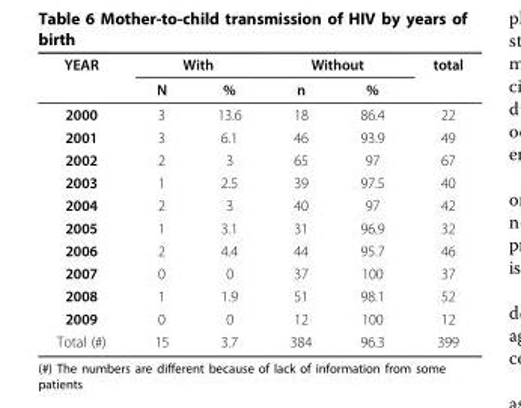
<table><thead><tr><td rowspan="2">YEAR</td><td colspan="2">With</td><td colspan="2">Without</td><td rowspan="2">total</td></tr><tr><td>N</td><td>%</td><td>n</td><td>%</td></tr></thead><tbody><tr><td>2000</td><td>3</td><td>13.6</td><td>18</td><td>86.4</td><td>22</td></tr><tr><td>2001</td><td>3</td><td>6.1</td><td>46</td><td>93.9</td><td>49</td></tr><tr><td>2002</td><td>2</td><td>3</td><td>65</td><td>97</td><td>67</td></tr><tr><td>2003</td><td>1</td><td>2.5</td><td>39</td><td>97.5</td><td>40</td></tr><tr><td>2004</td><td>2</td><td>3</td><td>40</td><td>97</td><td>42</td></tr><tr><td>2005</td><td>1</td><td>3.1</td><td>31</td><td>96.9</td><td>32</td></tr><tr><td>2006</td><td>2</td><td>4.4</td><td>44</td><td>95.7</td><td>46</td></tr><tr><td>2007</td><td>0</td><td>0</td><td>37</td><td>100</td><td>37</td></tr><tr><td>2008</td><td>1</td><td>1.9</td><td>51</td><td>98.1</td><td>52</td></tr><tr><td>2009</td><td>0</td><td>0</td><td>12</td><td>100</td><td>12</td></tr><tr><td>Total (#)</td><td>15</td><td>3.7</td><td>384</td><td>96.3</td><td>399</td></tr></tbody></table>